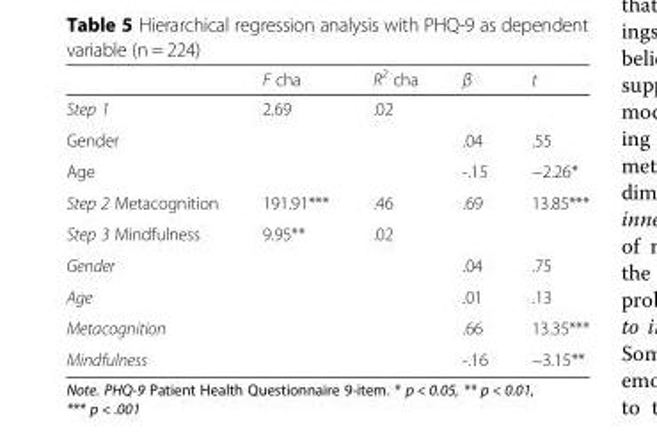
<table><thead><tr><td></td><td>F cha</td><td>R<sup>2</sup> cha</td><td>β</td><td>t</td></tr></thead><tbody><tr><td>Step 1</td><td>2.69</td><td>.02</td><td></td><td></td></tr><tr><td>Gender</td><td></td><td></td><td>.04</td><td>.55</td></tr><tr><td>Age</td><td></td><td></td><td>-.15</td><td>−2.26*</td></tr><tr><td>Step 2 Metacognition</td><td>191.91***</td><td>.46</td><td>.69</td><td>13.85***</td></tr><tr><td>Step 3 Mindfulness</td><td>9.95**</td><td>.02</td><td></td><td></td></tr><tr><td>Gender</td><td></td><td></td><td>.04</td><td>.75</td></tr><tr><td>Age</td><td></td><td></td><td>.01</td><td>.13</td></tr><tr><td>Metacognition</td><td></td><td></td><td>.66</td><td>13.35***</td></tr><tr><td>Mindfulness</td><td></td><td></td><td>-.16</td><td>−3.15**</td></tr></tbody></table>